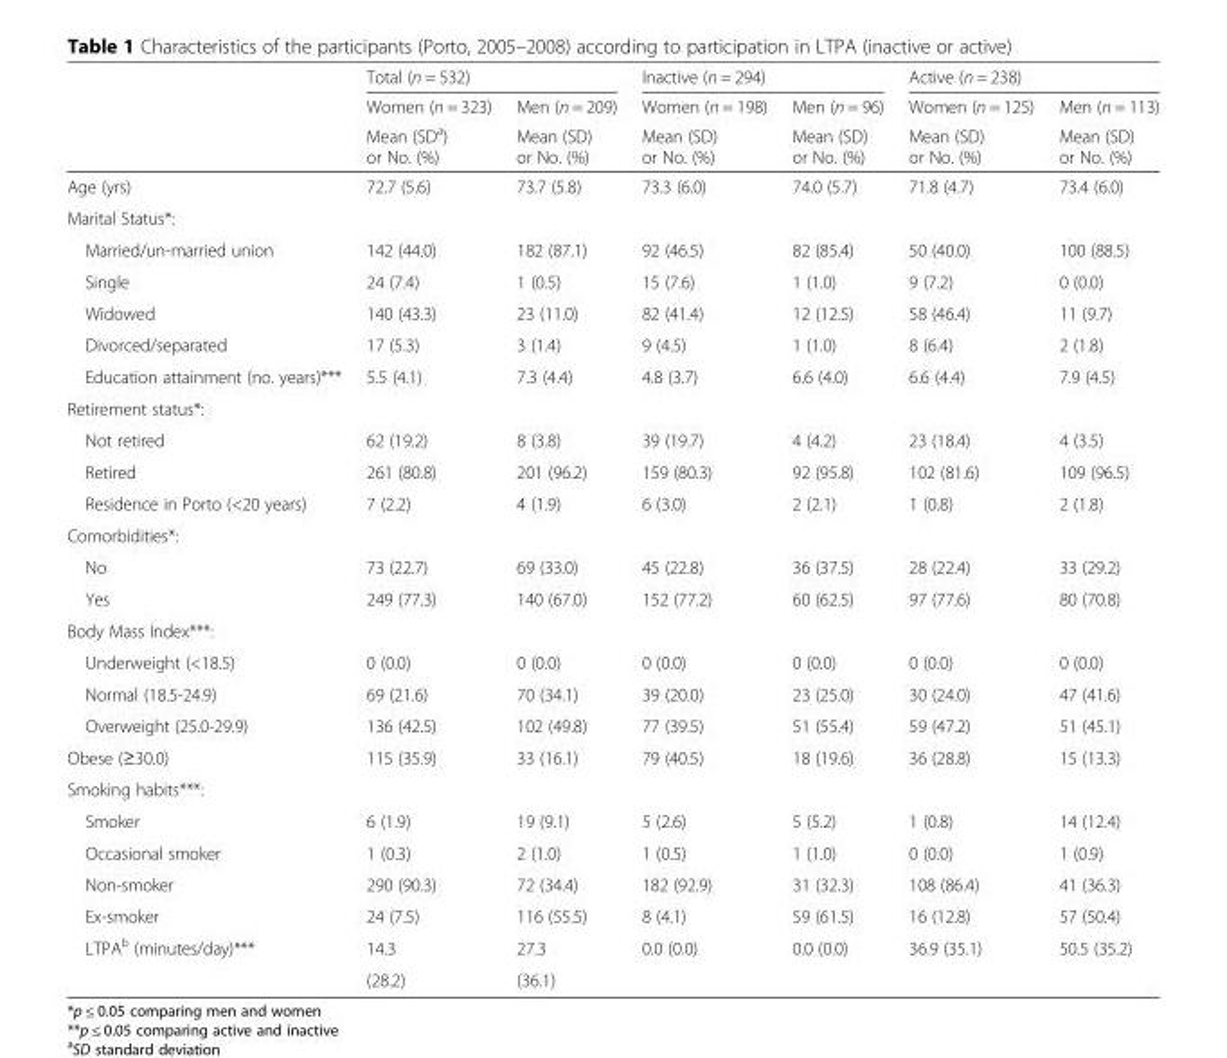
<table><thead><tr><td rowspan="3"></td><td colspan="2">Total (n = 532)</td><td colspan="2">Inactive (n = 294)</td><td colspan="2">Active (n = 238)</td></tr><tr><td rowspan="2">Women (n = 323) Mean (SD<sup>a</sup>) or No. (%)</td><td rowspan="2">Men (n = 209) Mean (SD) or No. (%)</td><td rowspan="2">Women (n = 198) Mean (SD) or No. (%)</td><td rowspan="2">Men (n = 96) Mean (SD) or No. (%)</td><td rowspan="2">Women (n = 125) Mean (SD) or No. (%)</td><td rowspan="2">Men (n = 113) Mean (SD) or No. (%)</td></tr><tr></tr></thead><tbody><tr><td>Age (yrs)</td><td>72.7 (5.6)</td><td>73.7 (5.8)</td><td>73.3 (6.0)</td><td>74.0 (5.7)</td><td>71.8 (4.7)</td><td>73.4 (6.0)</td></tr><tr><td colspan="7">Marital Status*:</td></tr><tr><td>Married/un-married union</td><td>142 (44.0)</td><td>182 (87.1)</td><td>92 (46.5)</td><td>82 (85.4)</td><td>50 (40.0)</td><td>100 (88.5)</td></tr><tr><td>Single</td><td>24 (7.4)</td><td>1 (0.5)</td><td>15 (7.6)</td><td>1 (1.0)</td><td>9 (7.2)</td><td>0 (0.0)</td></tr><tr><td>Widowed</td><td>140 (43.3)</td><td>23 (11.0)</td><td>82 (41.4)</td><td>12 (12.5)</td><td>58 (46.4)</td><td>11 (9.7)</td></tr><tr><td>Divorced/separated</td><td>17 (5.3)</td><td>3 (1.4)</td><td>9 (4.5)</td><td>1 (1.0)</td><td>8 (6.4)</td><td>2 (1.8)</td></tr><tr><td>Education attainment (no. years)***</td><td>5.5 (4.1)</td><td>7.3 (4.4)</td><td>4.8 (3.7)</td><td>6.6 (4.0)</td><td>6.6 (4.4)</td><td>7.9 (4.5)</td></tr><tr><td colspan="7">Retirement status*:</td></tr><tr><td>Not retired</td><td>62 (19.2)</td><td>8 (3.8)</td><td>39 (19.7)</td><td>4 (4.2)</td><td>23 (18.4)</td><td>4 (3.5)</td></tr><tr><td>Retired</td><td>261 (80.8)</td><td>201 (96.2)</td><td>159 (80.3)</td><td>92 (95.8)</td><td>102 (81.6)</td><td>109 (96.5)</td></tr><tr><td>Residence in Porto (&lt;20 years)</td><td>7 (2.2)</td><td>4 (1.9)</td><td>6 (3.0)</td><td>2 (2.1)</td><td>1 (0.8)</td><td>2 (1.8)</td></tr><tr><td colspan="7">Comorbidities*:</td></tr><tr><td>No</td><td>73 (22.7)</td><td>69 (33.0)</td><td>45 (22.8)</td><td>36 (37.5)</td><td>28 (22.4)</td><td>33 (29.2)</td></tr><tr><td>Yes</td><td>249 (77.3)</td><td>140 (67.0)</td><td>152 (77.2)</td><td>60 (62.5)</td><td>97 (77.6)</td><td>80 (70.8)</td></tr><tr><td colspan="7">Body Mass Index***:</td></tr><tr><td>Underweight (&lt;18.5)</td><td>0 (0.0)</td><td>0 (0.0)</td><td>0 (0.0)</td><td>0 (0.0)</td><td>0 (0.0)</td><td>0 (0.0)</td></tr><tr><td>Normal (18.5-24.9)</td><td>69 (21.6)</td><td>70 (34.1)</td><td>39 (20.0)</td><td>23 (25.0)</td><td>30 (24.0)</td><td>47 (41.6)</td></tr><tr><td>Overweight (25.0-29.9)</td><td>136 (42.5)</td><td>102 (49.8)</td><td>77 (39.5)</td><td>51 (55.4)</td><td>59 (47.2)</td><td>51 (45.1)</td></tr><tr><td>Obese (≥30.0)</td><td>115 (35.9)</td><td>33 (16.1)</td><td>79 (40.5)</td><td>18 (19.6)</td><td>36 (28.8)</td><td>15 (13.3)</td></tr><tr><td colspan="7">Smoking habits***:</td></tr><tr><td>Smoker</td><td>6 (1.9)</td><td>19 (9.1)</td><td>5 (2.6)</td><td>5 (5.2)</td><td>1 (0.8)</td><td>14 (12.4)</td></tr><tr><td>Occasional smoker</td><td>1 (0.3)</td><td>2 (1.0)</td><td>1 (0.5)</td><td>1 (1.0)</td><td>0 (0.0)</td><td>1 (0.9)</td></tr><tr><td>Non-smoker</td><td>290 (90.3)</td><td>72 (34.4)</td><td>182 (92.9)</td><td>31 (32.3)</td><td>108 (86.4)</td><td>41 (36.3)</td></tr><tr><td>Ex-smoker</td><td>24 (7.5)</td><td>116 (55.5)</td><td>8 (4.1)</td><td>59 (61.5)</td><td>16 (12.8)</td><td>57 (50.4)</td></tr><tr><td rowspan="2">LTPA<sup>b</sup> (minutes/day)***</td><td>14.3</td><td>27.3</td><td>0.0 (0.0)</td><td>0.0 (0.0)</td><td>36.9 (35.1)</td><td>50.5 (35.2)</td></tr><tr><td>(28.2)</td><td>(36.1)</td><td></td><td></td><td></td><td></td></tr></tbody></table>